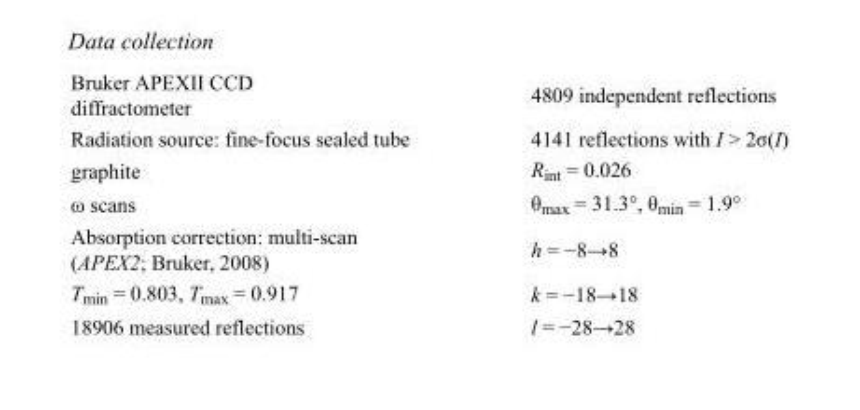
<table><tbody><tr><td>Bruker APEXII CCD diffractometer</td><td>4809 independent reflections</td></tr><tr><td>Radiation source: fine-focus sealed tube</td><td>4141 reflections with I &gt; 2σ(I)</td></tr><tr><td>graphite</td><td>R<sub>int</sub> = 0.026</td></tr><tr><td>ω scans</td><td>θ<sub>max</sub> = 31.3°, θ<sub>min</sub> = 1.9°</td></tr><tr><td>Absorption correction: multi-scan (APEX2; Bruker, 2008)</td><td>h = −8→8</td></tr><tr><td>T<sub>min</sub> = 0.803, T<sub>max</sub> = 0.917</td><td>k = −18→18</td></tr><tr><td>18906 measured reflections</td><td>l = −28→28</td></tr></tbody></table>